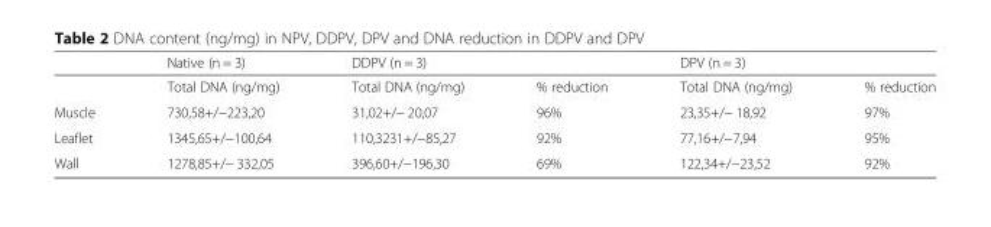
<table><thead><tr><td rowspan="2"></td><td rowspan="2">Native (n = 3) Total DNA (ng/mg)</td><td colspan="2">DDPV (n = 3)</td><td colspan="2">DPV (n = 3)</td></tr><tr><td>Total DNA (ng/mg)</td><td>% reduction</td><td>Total DNA (ng/mg)</td><td>% reduction</td></tr></thead><tbody><tr><td>Muscle</td><td>730,58+/−223,20</td><td>31,02+/− 20,07</td><td>96%</td><td>23,35+/− 18,92</td><td>97%</td></tr><tr><td>Leaflet</td><td>1345,65+/−100,64</td><td>110,3231+/−85,27</td><td>92%</td><td>77,16+/−7,94</td><td>95%</td></tr><tr><td>Wall</td><td>1278,85+/− 332,05</td><td>396,60+/−196,30</td><td>69%</td><td>122,34+/−23,52</td><td>92%</td></tr></tbody></table>